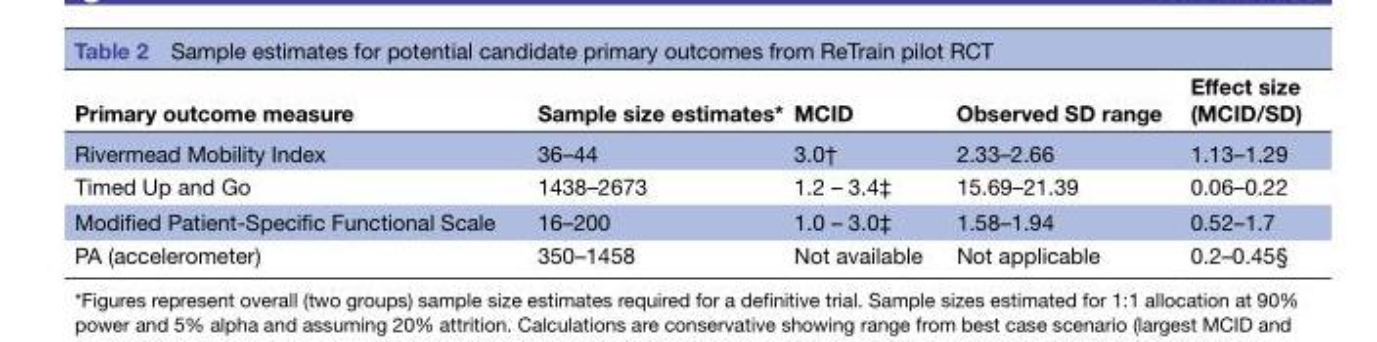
<table><thead><tr><td>Primary outcome measure</td><td>Sample size estimates*</td><td>MCID</td><td>Observed SD range</td><td>Effect size (MCID/SD)</td></tr></thead><tbody><tr><td>Rivermead Mobility Index</td><td>36–44</td><td>3.0†</td><td>2.33–2.66</td><td>1.13–1.29</td></tr><tr><td>Timed Up and Go</td><td>1438–2673</td><td>1.2 – 3.4‡</td><td>15.69–21.39</td><td>0.06–0.22</td></tr><tr><td>Modified Patient-Specific Functional Scale</td><td>16–200</td><td>1.0 – 3.0‡</td><td>1.58–1.94</td><td>0.52–1.7</td></tr><tr><td>PA (accelerometer)</td><td>350–1458</td><td>Not available</td><td>Not applicable</td><td>0.2–0.45§</td></tr></tbody></table>